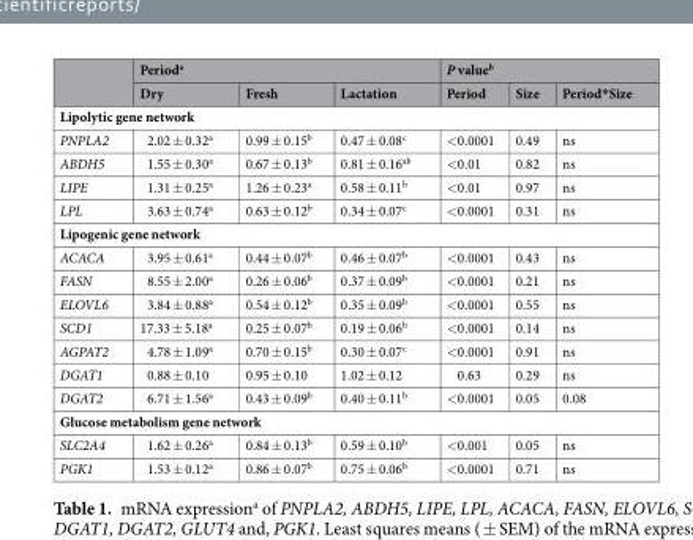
<table><thead><tr><td rowspan="2"></td><td colspan="3">Period<sup>a</sup></td><td colspan="3">P value<sup>b</sup></td></tr><tr><td>Dry</td><td>Fresh</td><td>Lactation</td><td>Period</td><td>Size</td><td>Period*Size</td></tr></thead><tbody><tr><td colspan="7">Lipolytic gene network</td></tr><tr><td>PNPLA2</td><td>2.02 ± 0.32<sup>a</sup></td><td>0.99 ± 0.15<sup>b</sup></td><td>0.47 ± 0.08<sup>c</sup></td><td>&lt;0.0001</td><td>0.49</td><td>ns</td></tr><tr><td>ABDH5</td><td>1.55 ± 0.30<sup>a</sup></td><td>0.67 ± 0.13<sup>b</sup></td><td>0.81 ± 0.16<sup>ab</sup></td><td>&lt;0.01</td><td>0.82</td><td>ns</td></tr><tr><td>LIPE</td><td>1.31 ± 0.25<sup>a</sup></td><td>1.26 ± 0.23<sup>a</sup></td><td>0.58 ± 0.11<sup>b</sup></td><td>&lt;0.01</td><td>0.97</td><td>ns</td></tr><tr><td>LPL</td><td>3.63 ± 0.74<sup>a</sup></td><td>0.63 ± 0.12<sup>b</sup></td><td>0.34 ± 0.07<sup>c</sup></td><td>&lt;0.0001</td><td>0.31</td><td>ns</td></tr><tr><td colspan="7">Lipogenic gene network</td></tr><tr><td>ACACA</td><td>3.95 ± 0.61<sup>a</sup></td><td>0.44 ± 0.07<sup>b</sup></td><td>0.46 ± 0.07<sup>b</sup></td><td>&lt;0.0001</td><td>0.43</td><td>ns</td></tr><tr><td>FASN</td><td>8.55 ± 2.00<sup>a</sup></td><td>0.26 ± 0.06<sup>b</sup></td><td>0.37 ± 0.09<sup>b</sup></td><td>&lt;0.0001</td><td>0.21</td><td>ns</td></tr><tr><td>ELOVL6</td><td>3.84 ± 0.88<sup>a</sup></td><td>0.54 ± 0.12<sup>b</sup></td><td>0.35 ± 0.09<sup>b</sup></td><td>&lt;0.0001</td><td>0.55</td><td>ns</td></tr><tr><td>SCD1</td><td>17.33 ± 5.18<sup>a</sup></td><td>0.25 ± 0.07<sup>b</sup></td><td>0.19 ± 0.06<sup>b</sup></td><td>&lt;0.0001</td><td>0.14</td><td>ns</td></tr><tr><td>AGPAT2</td><td>4.78 ± 1.09<sup>a</sup></td><td>0.70 ± 0.15<sup>b</sup></td><td>0.30 ± 0.07<sup>c</sup></td><td>&lt;0.0001</td><td>0.91</td><td>ns</td></tr><tr><td>DGAT1</td><td>0.88 ± 0.10</td><td>0.95 ± 0.10</td><td>1.02 ± 0.12</td><td>0.63</td><td>0.29</td><td>ns</td></tr><tr><td>DGAT2</td><td>6.71 ± 1.56<sup>a</sup></td><td>0.43 ± 0.09<sup>b</sup></td><td>0.40 ± 0.11<sup>b</sup></td><td>&lt;0.0001</td><td>0.05</td><td>0.08</td></tr><tr><td colspan="7">Glucose metabolism gene network</td></tr><tr><td>SLC2A4</td><td>1.62 ± 0.26<sup>a</sup></td><td>0.84 ± 0.13<sup>b</sup></td><td>0.59 ± 0.10<sup>b</sup></td><td>&lt;0.001</td><td>0.05</td><td>ns</td></tr><tr><td>PGK1</td><td>1.53 ± 0.12<sup>a</sup></td><td>0.86 ± 0.07<sup>b</sup></td><td>0.75 ± 0.06<sup>b</sup></td><td>&lt;0.0001</td><td>0.71</td><td>ns</td></tr></tbody></table>